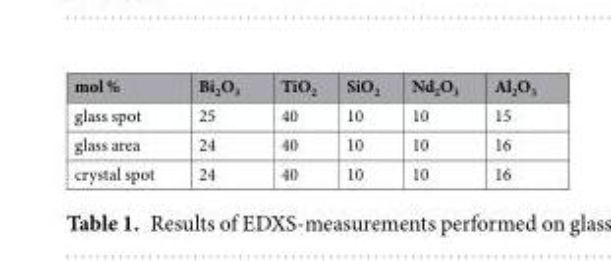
<table><thead><tr><td>mol %</td><td>Bi<sub>2</sub>O<sub>3</sub></td><td>TiO<sub>2</sub></td><td>SiO<sub>2</sub></td><td>Nd<sub>2</sub>O<sub>3</sub></td><td>Al<sub>2</sub>O<sub>3</sub></td></tr></thead><tbody><tr><td>glass spot</td><td>25</td><td>40</td><td>10</td><td>10</td><td>15</td></tr><tr><td>glass area</td><td>24</td><td>40</td><td>10</td><td>10</td><td>16</td></tr><tr><td>crystal spot</td><td>24</td><td>40</td><td>10</td><td>10</td><td>16</td></tr></tbody></table>